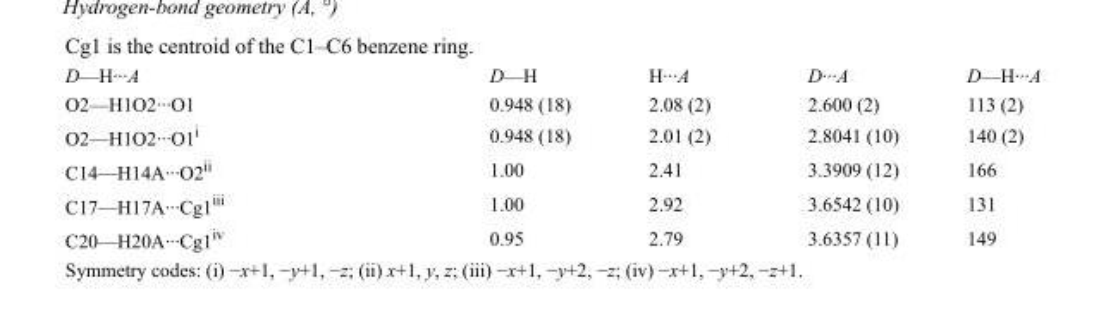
<table><tbody><tr><td>D—H···A</td><td>D—H</td><td>H···A</td><td>D···A</td><td>D—H···A</td></tr><tr><td>O2—H1O2···O1</td><td>0.948 (18)</td><td>2.08 (2)</td><td>2.600 (2)</td><td>113 (2)</td></tr><tr><td>O2—H1O2···O1<sup>i</sup></td><td>0.948 (18)</td><td>2.01 (2)</td><td>2.8041 (10)</td><td>140 (2)</td></tr><tr><td>C14—H14A···O2<sup>ii</sup></td><td>1.00</td><td>2.41</td><td>3.3909 (12)</td><td>166</td></tr><tr><td>C17—H17A···Cg1<sup>iii</sup></td><td>1.00</td><td>2.92</td><td>3.6542 (10)</td><td>131</td></tr><tr><td>C20—H20A···Cg1<sup>iv</sup></td><td>0.95</td><td>2.79</td><td>3.6357 (11)</td><td>149</td></tr></tbody></table>